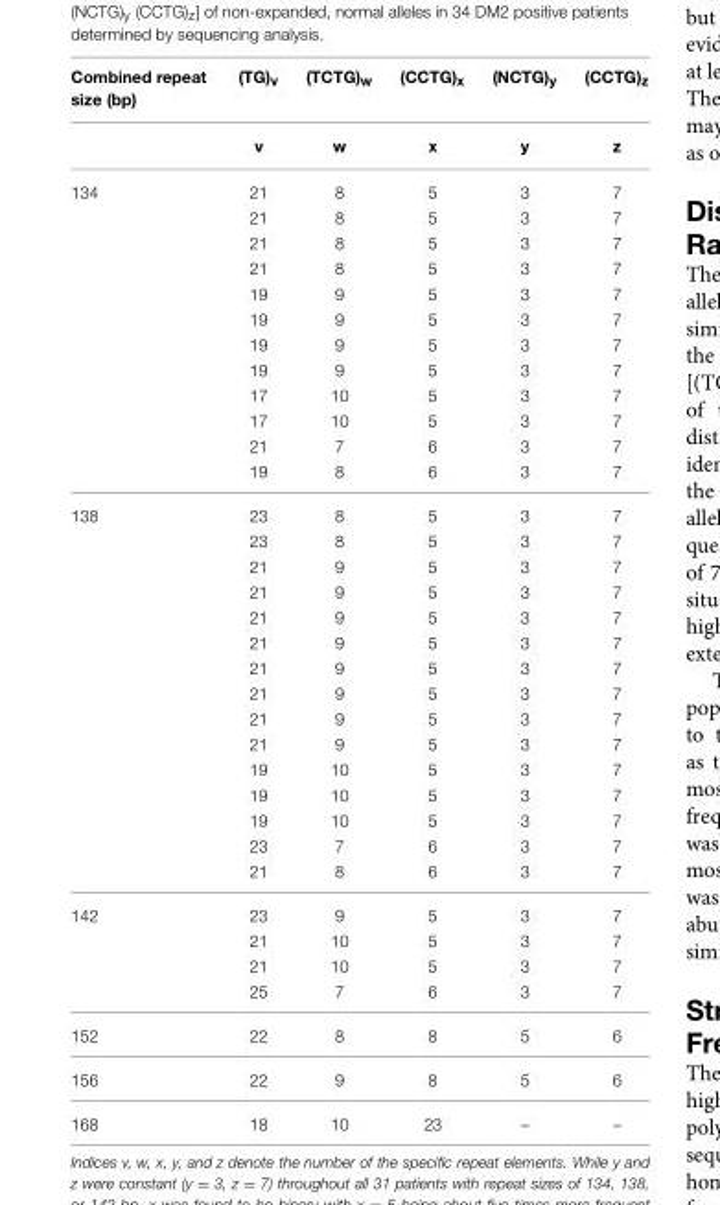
<table><thead><tr><td rowspan="2">Combined repeat size (bp)</td><td rowspan="2">(TG)<sub>v</sub> v</td><td rowspan="2">(TCTG)<sub>w</sub> w</td><td rowspan="2">(CCTG)<sub>x</sub> x</td><td rowspan="2">(NCTG)<sub>y</sub> y</td><td rowspan="2">(CCTG)<sub>z</sub> z</td></tr><tr></tr></thead><tbody><tr><td rowspan="12">134</td><td>21</td><td>8</td><td>5</td><td>3</td><td>7</td></tr><tr><td>21</td><td>8</td><td>5</td><td>3</td><td>7</td></tr><tr><td>21</td><td>8</td><td>5</td><td>3</td><td>7</td></tr><tr><td>21</td><td>8</td><td>5</td><td>3</td><td>7</td></tr><tr><td>19</td><td>9</td><td>5</td><td>3</td><td>7</td></tr><tr><td>19</td><td>9</td><td>5</td><td>3</td><td>7</td></tr><tr><td>19</td><td>9</td><td>5</td><td>3</td><td>7</td></tr><tr><td>19</td><td>9</td><td>5</td><td>3</td><td>7</td></tr><tr><td>17</td><td>10</td><td>5</td><td>3</td><td>7</td></tr><tr><td>17</td><td>10</td><td>5</td><td>3</td><td>7</td></tr><tr><td>21</td><td>7</td><td>6</td><td>3</td><td>7</td></tr><tr><td>19</td><td>8</td><td>6</td><td>3</td><td>7</td></tr><tr><td rowspan="15">138</td><td>23</td><td>8</td><td>5</td><td>3</td><td>7</td></tr><tr><td>23</td><td>8</td><td>5</td><td>3</td><td>7</td></tr><tr><td>21</td><td>9</td><td>5</td><td>3</td><td>7</td></tr><tr><td>21</td><td>9</td><td>5</td><td>3</td><td>7</td></tr><tr><td>21</td><td>9</td><td>5</td><td>3</td><td>7</td></tr><tr><td>21</td><td>9</td><td>5</td><td>3</td><td>7</td></tr><tr><td>21</td><td>9</td><td>5</td><td>3</td><td>7</td></tr><tr><td>21</td><td>9</td><td>5</td><td>3</td><td>7</td></tr><tr><td>21</td><td>9</td><td>5</td><td>3</td><td>7</td></tr><tr><td>21</td><td>9</td><td>5</td><td>3</td><td>7</td></tr><tr><td>19</td><td>10</td><td>5</td><td>3</td><td>7</td></tr><tr><td>19</td><td>10</td><td>5</td><td>3</td><td>7</td></tr><tr><td>19</td><td>10</td><td>5</td><td>3</td><td>7</td></tr><tr><td>23</td><td>7</td><td>6</td><td>3</td><td>7</td></tr><tr><td>21</td><td>8</td><td>6</td><td>3</td><td>7</td></tr><tr><td rowspan="4">142</td><td>23</td><td>9</td><td>5</td><td>3</td><td>7</td></tr><tr><td>21</td><td>10</td><td>5</td><td>3</td><td>7</td></tr><tr><td>21</td><td>10</td><td>5</td><td>3</td><td>7</td></tr><tr><td>25</td><td>7</td><td>6</td><td>3</td><td>7</td></tr><tr><td>152</td><td>22</td><td>8</td><td>8</td><td>5</td><td>6</td></tr><tr><td>156</td><td>22</td><td>9</td><td>8</td><td>5</td><td>6</td></tr><tr><td>168</td><td>18</td><td>10</td><td>23</td><td>–</td><td>–</td></tr></tbody></table>